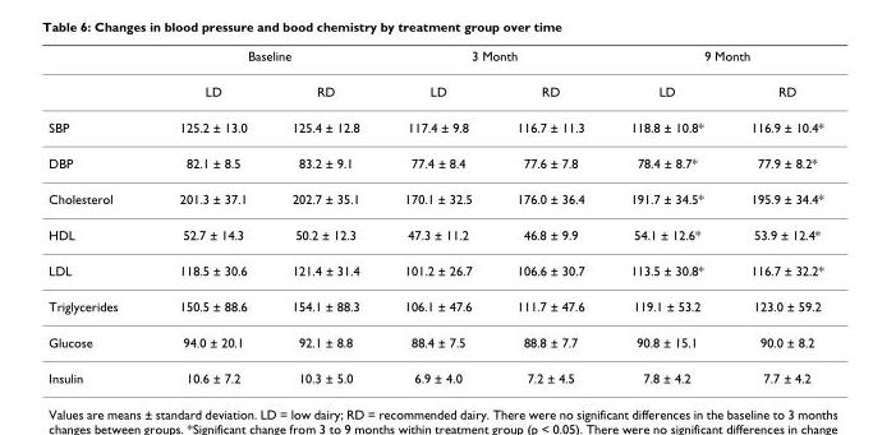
<table><thead><tr><td rowspan="2"></td><td colspan="2">Baseline</td><td colspan="2">3 Month</td><td colspan="2">9 Month</td></tr><tr><td>LD</td><td>RD</td><td>LD</td><td>RD</td><td>LD</td><td>RD</td></tr></thead><tbody><tr><td>SBP</td><td>125.2 ± 13.0</td><td>125.4 ± 12.8</td><td>117.4 ± 9.8</td><td>116.7 ± 11.3</td><td>118.8 ± 10.8*</td><td>116.9 ± 10.4*</td></tr><tr><td>DBP</td><td>82.1 ± 8.5</td><td>83.2 ± 9.1</td><td>77.4 ± 8.4</td><td>77.6 ± 7.8</td><td>78.4 ± 8.7*</td><td>77.9 ± 8.2*</td></tr><tr><td>Cholesterol</td><td>201.3 ± 37.1</td><td>202.7 ± 35.1</td><td>170.1 ± 32.5</td><td>176.0 ± 36.4</td><td>191.7 ± 34.5*</td><td>195.9 ± 34.4*</td></tr><tr><td>HDL</td><td>52.7 ± 14.3</td><td>50.2 ± 12.3</td><td>47.3 ± 11.2</td><td>46.8 ± 9.9</td><td>54.1 ± 12.6*</td><td>53.9 ± 12.4*</td></tr><tr><td>LDL</td><td>118.5 ± 30.6</td><td>121.4 ± 31.4</td><td>101.2 ± 26.7</td><td>106.6 ± 30.7</td><td>113.5 ± 30.8*</td><td>116.7 ± 32.2*</td></tr><tr><td>Triglycerides</td><td>150.5 ± 88.6</td><td>154.1 ± 88.3</td><td>106.1 ± 47.6</td><td>111.7 ± 47.6</td><td>119.1 ± 53.2</td><td>123.0 ± 59.2</td></tr><tr><td>Glucose</td><td>94.0 ± 20.1</td><td>92.1 ± 8.8</td><td>88.4 ± 7.5</td><td>88.8 ± 7.7</td><td>90.8 ± 15.1</td><td>90.0 ± 8.2</td></tr><tr><td>Insulin</td><td>10.6 ± 7.2</td><td>10.3 ± 5.0</td><td>6.9 ± 4.0</td><td>7.2 ± 4.5</td><td>7.8 ± 4.2</td><td>7.7 ± 4.2</td></tr></tbody></table>